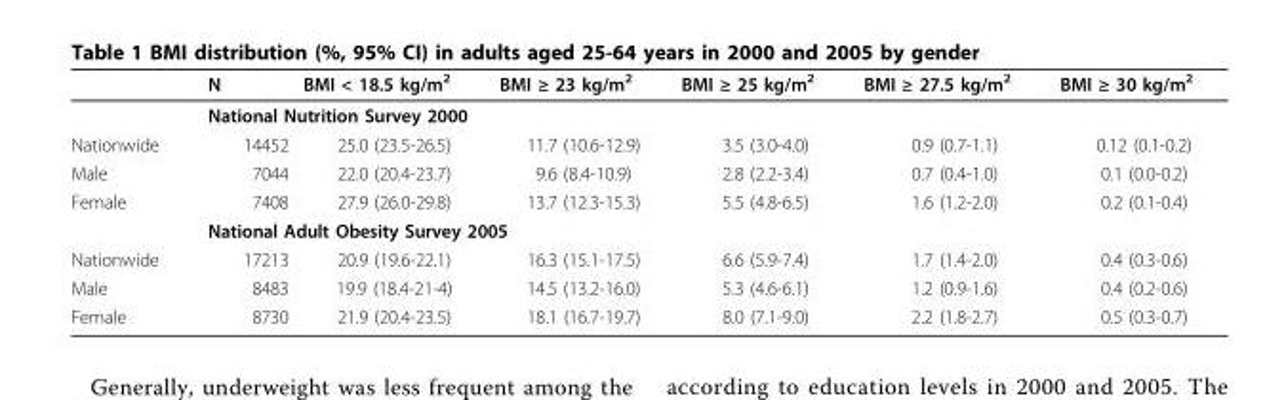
<table><thead><tr><td></td><td>N</td><td>BMI &lt; 18.5 kg/m<sup>2</sup></td><td>BMI ≥ 23 kg/m<sup>2</sup></td><td>BMI ≥ 25 kg/m<sup>2</sup></td><td>BMI ≥ 27.5 kg/m<sup>2</sup></td><td>BMI ≥ 30 kg/m<sup>2</sup></td></tr></thead><tbody><tr><td></td><td colspan="6">National Nutrition Survey 2000</td></tr><tr><td>Nationwide</td><td>14452</td><td>25.0 (23.5-26.5)</td><td>11.7 (10.6-12.9)</td><td>3.5 (3.0-4.0)</td><td>0.9 (0.7-1.1)</td><td>0.12 (0.1-0.2)</td></tr><tr><td>Male</td><td>7044</td><td>22.0 (20.4-23.7)</td><td>9.6 (8.4-10.9)</td><td>2.8 (2.2-3.4)</td><td>0.7 (0.4-1.0)</td><td>0.1 (0.0-0.2)</td></tr><tr><td rowspan="2">Female</td><td>7408</td><td>27.9 (26.0-29.8)</td><td>13.7 (12.3-15.3)</td><td>5.5 (4.8-6.5)</td><td>1.6 (1.2-2.0)</td><td>0.2 (0.1-0.4)</td></tr><tr><td colspan="6">National Adult Obesity Survey 2005</td></tr><tr><td>Nationwide</td><td>17213</td><td>20.9 (19.6-22.1)</td><td>16.3 (15.1-17.5)</td><td>6.6 (5.9-7.4)</td><td>1.7 (1.4-2.0)</td><td>0.4 (0.3-0.6)</td></tr><tr><td>Male</td><td>8483</td><td>19.9 (18.4-21-4)</td><td>14.5 (13.2-16.0)</td><td>5.3 (4.6-6.1)</td><td>1.2 (0.9-1.6)</td><td>0.4 (0.2-0.6)</td></tr><tr><td>Female</td><td>8730</td><td>21.9 (20.4-23.5)</td><td>18.1 (16.7-19.7)</td><td>8.0 (7.1-9.0)</td><td>2.2 (1.8-2.7)</td><td>0.5 (0.3-0.7)</td></tr></tbody></table>